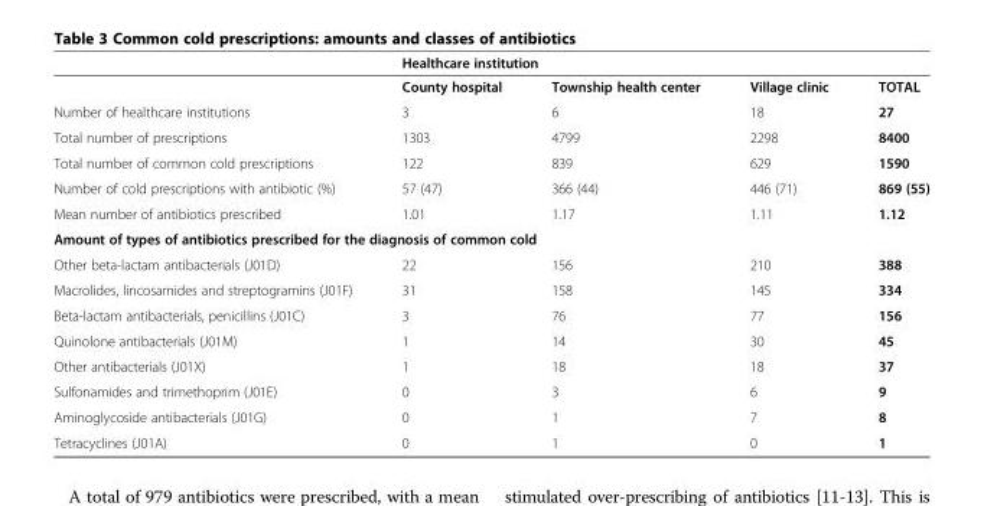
<table><thead><tr><td rowspan="2"></td><td colspan="3">Healthcare institution</td><td rowspan="2">TOTAL</td></tr><tr><td>County hospital</td><td>Township health center</td><td>Village clinic</td></tr></thead><tbody><tr><td>Number of healthcare institutions</td><td>3</td><td>6</td><td>18</td><td>27</td></tr><tr><td>Total number of prescriptions</td><td>1303</td><td>4799</td><td>2298</td><td>8400</td></tr><tr><td>Total number of common cold prescriptions</td><td>122</td><td>839</td><td>629</td><td>1590</td></tr><tr><td>Number of cold prescriptions with antibiotic (%)</td><td>57 (47)</td><td>366 (44)</td><td>446 (71)</td><td>869 (55)</td></tr><tr><td>Mean number of antibiotics prescribed</td><td>1.01</td><td>1.17</td><td>1.11</td><td>1.12</td></tr><tr><td colspan="5">Amount of types of antibiotics prescribed for the diagnosis of common cold</td></tr><tr><td>Other beta-lactam antibacterials (J01D)</td><td>22</td><td>156</td><td>210</td><td>388</td></tr><tr><td>Macrolides, lincosamides and streptogramins (J01F)</td><td>31</td><td>158</td><td>145</td><td>334</td></tr><tr><td>Beta-lactam antibacterials, penicillins (J01C)</td><td>3</td><td>76</td><td>77</td><td>156</td></tr><tr><td>Quinolone antibacterials (J01M)</td><td>1</td><td>14</td><td>30</td><td>45</td></tr><tr><td>Other antibacterials (J01X)</td><td>1</td><td>18</td><td>18</td><td>37</td></tr><tr><td>Sulfonamides and trimethoprim (J01E)</td><td>0</td><td>3</td><td>6</td><td>9</td></tr><tr><td>Aminoglycoside antibacterials (J01G)</td><td>0</td><td>1</td><td>7</td><td>8</td></tr><tr><td>Tetracyclines (J01A)</td><td>0</td><td>1</td><td>0</td><td>1</td></tr></tbody></table>